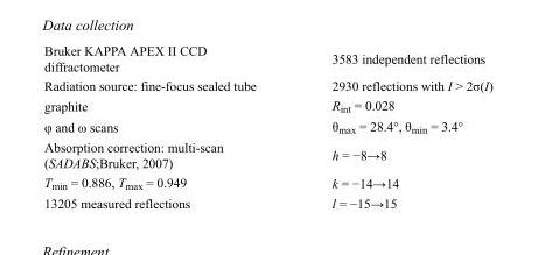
<table><tbody><tr><td>Bruker KAPPA APEX II CCD diffractometer</td><td>3583 independent reflections</td></tr><tr><td>Radiation source: fine-focus sealed tube</td><td>2930 reflections with I &gt; 2σ(I)</td></tr><tr><td>graphite</td><td>R<sub>int</sub> = 0.028</td></tr><tr><td>φ and ω scans</td><td>θ<sub>max</sub> = 28.4°, θ<sub>min</sub> = 3.4°</td></tr><tr><td>Absorption correction: multi-scan (SADABS;Bruker, 2007)</td><td>h = −8→8</td></tr><tr><td>T<sub>min</sub> = 0.886, T<sub>max</sub> = 0.949</td><td>k = −14→14</td></tr><tr><td>13205 measured reflections</td><td>l = −15→15</td></tr></tbody></table>